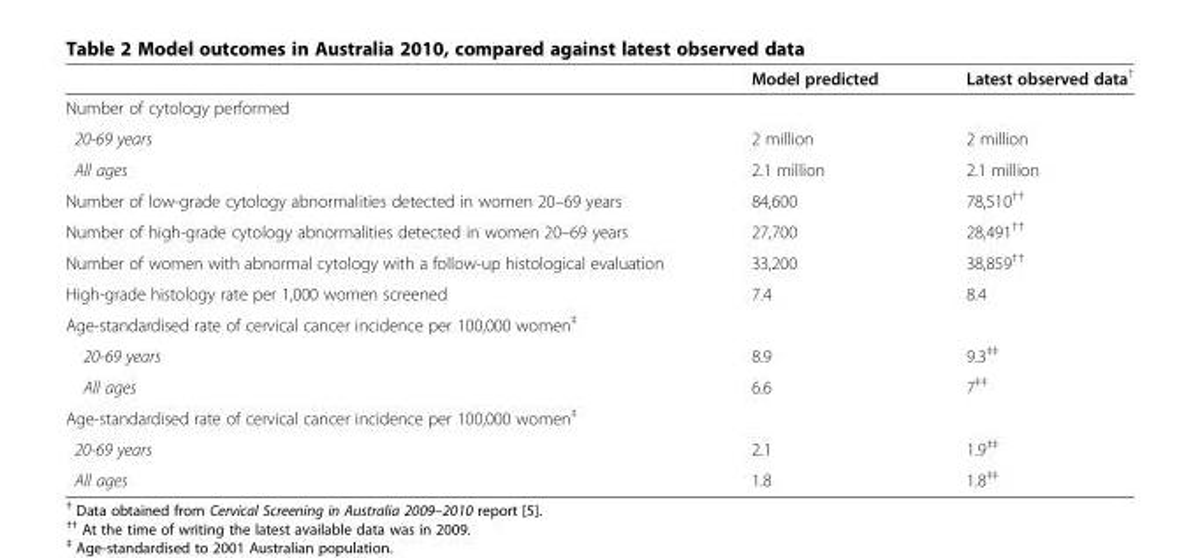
<table><thead><tr><td></td><td>Model predicted</td><td>Latest observed data<sup>†</sup></td></tr></thead><tbody><tr><td colspan="3">Number of cytology performed</td></tr><tr><td>20-69 years</td><td>2 million</td><td>2 million</td></tr><tr><td>All ages</td><td>2.1 million</td><td>2.1 million</td></tr><tr><td>Number of low-grade cytology abnormalities detected in women 20–69 years</td><td>84,600</td><td>78,510<sup>††</sup></td></tr><tr><td>Number of high-grade cytology abnormalities detected in women 20–69 years</td><td>27,700</td><td>28,491<sup>††</sup></td></tr><tr><td>Number of women with abnormal cytology with a follow-up histological evaluation</td><td>33,200</td><td>38,859<sup>††</sup></td></tr><tr><td>High-grade histology rate per 1,000 women screened</td><td>7.4</td><td>8.4</td></tr><tr><td colspan="3">Age-standardised rate of cervical cancer incidence per 100,000 women<sup>‡</sup></td></tr><tr><td>20-69 years</td><td>8.9</td><td>9.3<sup>‡‡</sup></td></tr><tr><td>All ages</td><td>6.6</td><td>7<sup>‡‡</sup></td></tr><tr><td colspan="3">Age-standardised rate of cervical cancer incidence per 100,000 women<sup>‡</sup></td></tr><tr><td>20-69 years</td><td>2.1</td><td>1.9<sup>‡‡</sup></td></tr><tr><td>All ages</td><td>1.8</td><td>1.8<sup>‡‡</sup></td></tr></tbody></table>